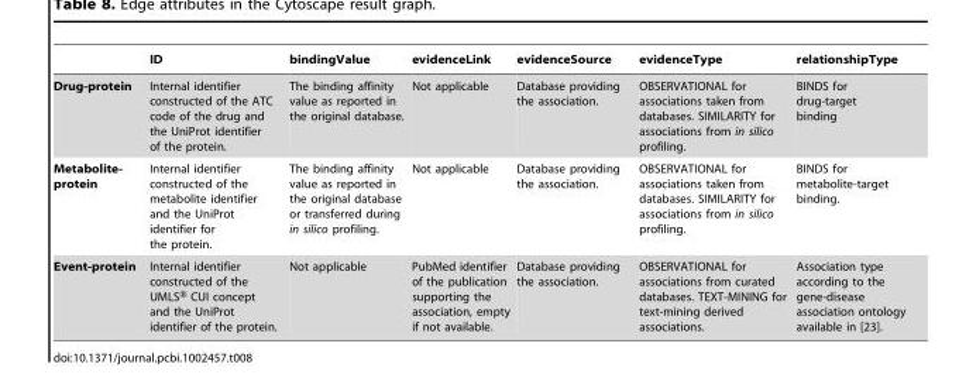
<table><thead><tr><td></td><td>ID</td><td>bindingValue</td><td>evidenceLink</td><td>evidenceSource</td><td>evidenceType</td><td>relationshipType</td></tr></thead><tbody><tr><td>Drug-protein</td><td>Internal identifier constructed of the ATC code of the drug and the UniProt identifier of the protein.</td><td>The binding affinity value as reported in the original database.</td><td>Not applicable</td><td>Database providing the association.</td><td>OBSERVATIONAL for associations taken from databases. SIMILARITY for associations from in silico profiling.</td><td>BINDS for drug-target binding</td></tr><tr><td>Metabolite- protein</td><td>Internal identifier constructed of the metabolite identifier and the UniProt identifier for the protein.</td><td>The binding affinity value as reported in the original database or transferred during in silico profiling.</td><td>Not applicable</td><td>Database providing the association.</td><td>OBSERVATIONAL for associations taken from databases. SIMILARITY for associations from in silico profiling.</td><td>BINDS for metabolite-target binding.</td></tr><tr><td>Event-protein</td><td>Internal identifier constructed of the UMLS® CUI concept and the UniProt identifier of the protein.</td><td>Not applicable</td><td>PubMed identifier of the publication supporting the association, empty if not available.</td><td>Database providing the association.</td><td>OBSERVATIONAL for associations from curated databases. TEXT-MINING for text-mining derived associations.</td><td>Association type according to the gene-disease association ontology available in [23].</td></tr></tbody></table>